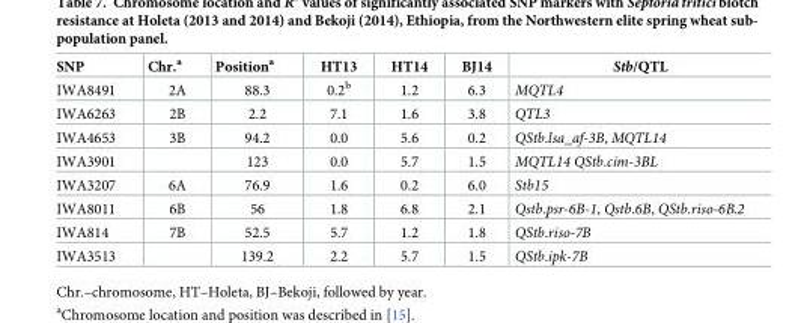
<table><thead><tr><td>SNP</td><td>Chr.<sup>a</sup></td><td>Position<sup>a</sup></td><td>HT13</td><td>HT14</td><td>BJ14</td><td>Stb/QTL</td></tr></thead><tbody><tr><td>IWA8491</td><td>2A</td><td>88.3</td><td>0.2<sup>b</sup></td><td>1.2</td><td>6.3</td><td>MQTL4</td></tr><tr><td>IWA6263</td><td>2B</td><td>2.2</td><td>7.1</td><td>1.6</td><td>3.8</td><td>QTL3</td></tr><tr><td>IWA4653</td><td>3B</td><td>94.2</td><td>0.0</td><td>5.6</td><td>0.2</td><td>QStb.lsa_af-3B, MQTL14</td></tr><tr><td>IWA3901</td><td></td><td>123</td><td>0.0</td><td>5.7</td><td>1.5</td><td>MQTL14 QStb.cim-3BL</td></tr><tr><td>IWA3207</td><td>6A</td><td>76.9</td><td>1.6</td><td>0.2</td><td>6.0</td><td>Stb15</td></tr><tr><td>IWA8011</td><td>6B</td><td>56</td><td>1.8</td><td>6.8</td><td>2.1</td><td>Qstb.psr-6B-1, Qstb.6B, QStb.riso-6B.2</td></tr><tr><td>IWA814</td><td>7B</td><td>52.5</td><td>5.7</td><td>1.2</td><td>1.8</td><td>QStb.riso-7B</td></tr><tr><td>IWA3513</td><td></td><td>139.2</td><td>2.2</td><td>5.7</td><td>1.5</td><td>QStb.ipk-7B</td></tr></tbody></table>